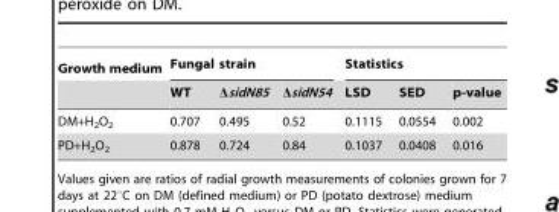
<table><thead><tr><td rowspan="2">Growth medium</td><td colspan="3">Fungal strain</td><td colspan="3">Statistics</td></tr><tr><td>WT</td><td>ΔsidN85</td><td>ΔsidN54</td><td>LSD</td><td>SED</td><td>p-value</td></tr></thead><tbody><tr><td>DM+H<sub>2</sub>O<sub>2</sub></td><td>0.707</td><td>0.495</td><td>0.52</td><td>0.1115</td><td>0.0554</td><td>0.002</td></tr><tr><td>PD+H<sub>2</sub>O<sub>2</sub></td><td>0.878</td><td>0.724</td><td>0.84</td><td>0.1037</td><td>0.0408</td><td>0.016</td></tr></tbody></table>